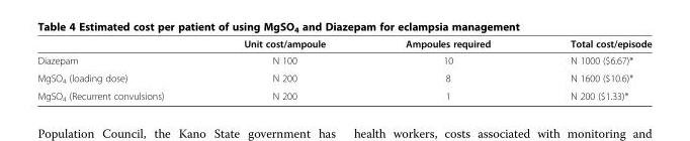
<table><thead><tr><td></td><td>Unit cost/ampoule</td><td>Ampoules required</td><td>Total cost/episode</td></tr></thead><tbody><tr><td>Diazepam</td><td>N 100</td><td>10</td><td>N 1000 ($6.67)*</td></tr><tr><td>MgSO<sub>4</sub> (loading dose)</td><td>N 200</td><td>8</td><td>N 1600 ($10.6)*</td></tr><tr><td>MgSO<sub>4</sub> (Recurrent convulsions)</td><td>N 200</td><td>1</td><td>N 200 ($1.33)*</td></tr></tbody></table>